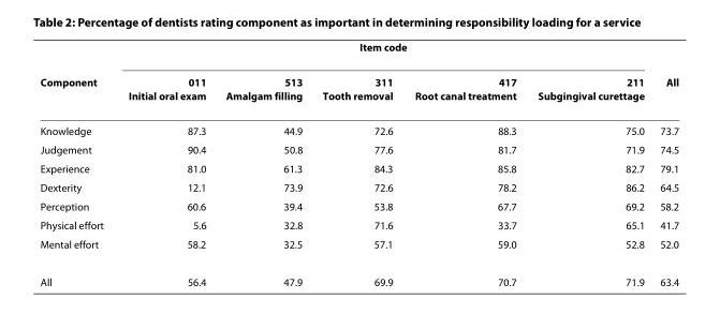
<table><thead><tr><td rowspan="2">Component</td><td colspan="5">Item code</td><td rowspan="2">All</td></tr><tr><td>011 Initial oral exam</td><td>513 Amalgam filling</td><td>311 Tooth removal</td><td>417 Root canal treatment</td><td>211 Subgingival curettage</td></tr></thead><tbody><tr><td>Knowledge</td><td>87.3</td><td>44.9</td><td>72.6</td><td>88.3</td><td>75.0</td><td>73.7</td></tr><tr><td>Judgement</td><td>90.4</td><td>50.8</td><td>77.6</td><td>81.7</td><td>71.9</td><td>74.5</td></tr><tr><td>Experience</td><td>81.0</td><td>61.3</td><td>84.3</td><td>85.8</td><td>82.7</td><td>79.1</td></tr><tr><td>Dexterity</td><td>12.1</td><td>73.9</td><td>72.6</td><td>78.2</td><td>86.2</td><td>64.5</td></tr><tr><td>Perception</td><td>60.6</td><td>39.4</td><td>53.8</td><td>67.7</td><td>69.2</td><td>58.2</td></tr><tr><td>Physical effort</td><td>5.6</td><td>32.8</td><td>71.6</td><td>33.7</td><td>65.1</td><td>41.7</td></tr><tr><td>Mental effort</td><td>58.2</td><td>32.5</td><td>57.1</td><td>59.0</td><td>52.8</td><td>52.0</td></tr><tr><td>All</td><td>56.4</td><td>47.9</td><td>69.9</td><td>70.7</td><td>71.9</td><td>63.4</td></tr></tbody></table>